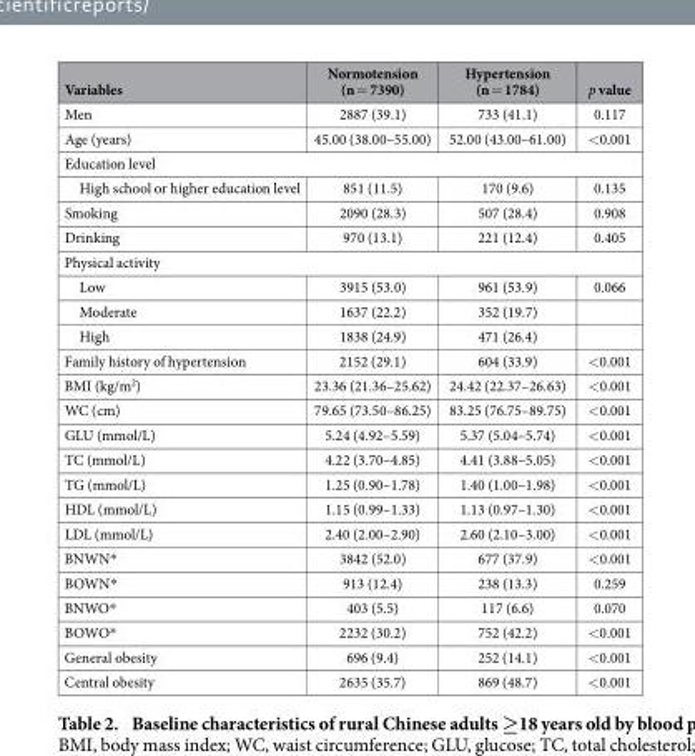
<table><thead><tr><td>Variables</td><td>Normotension (n = 7390)</td><td>Hypertension (n = 1784)</td><td>p value</td></tr></thead><tbody><tr><td>Men</td><td>2887 (39.1)</td><td>733 (41.1)</td><td>0.117</td></tr><tr><td>Age (years)</td><td>45.00 (38.00–55.00)</td><td>52.00 (43.00–61.00)</td><td>&lt; 0.001</td></tr><tr><td colspan="4">Education level</td></tr><tr><td>High school or higher education level</td><td>851 (11.5)</td><td>170 (9.6)</td><td>0.135</td></tr><tr><td>Smoking</td><td>2090 (28.3)</td><td>507 (28.4)</td><td>0.908</td></tr><tr><td>Drinking</td><td>970 (13.1)</td><td>221 (12.4)</td><td>0.405</td></tr><tr><td colspan="4">Physical activity</td></tr><tr><td>Low</td><td>3915 (53.0)</td><td>961 (53.9)</td><td>0.066</td></tr><tr><td>Moderate</td><td>1637 (22.2)</td><td>352 (19.7)</td><td></td></tr><tr><td>High</td><td>1838 (24.9)</td><td>471 (26.4)</td><td></td></tr><tr><td>Family history of hypertension</td><td>2152 (29.1)</td><td>604 (33.9)</td><td>&lt; 0.001</td></tr><tr><td>BMI (kg/m<sup>2</sup>)</td><td>23.36 (21.36–25.62)</td><td>24.42 (22.37–26.63)</td><td>&lt; 0.001</td></tr><tr><td>WC (cm)</td><td>79.65 (73.50–86.25)</td><td>83.25 (76.75–89.75)</td><td>&lt; 0.001</td></tr><tr><td>GLU (mmol/L)</td><td>5.24 (4.92–5.59)</td><td>5.37 (5.04–5.74)</td><td>&lt; 0.001</td></tr><tr><td>TC (mmol/L)</td><td>4.22 (3.70–4.85)</td><td>4.41 (3.88–5.05)</td><td>&lt; 0.001</td></tr><tr><td>TG (mmol/L)</td><td>1.25 (0.90–1.78)</td><td>1.40 (1.00–1.98)</td><td>&lt; 0.001</td></tr><tr><td>HDL (mmol/L)</td><td>1.15 (0.99–1.33)</td><td>1.13 (0.97–1.30)</td><td>&lt; 0.001</td></tr><tr><td>LDL (mmol/L)</td><td>2.40 (2.00–2.90)</td><td>2.60 (2.10–3.00)</td><td>&lt; 0.001</td></tr><tr><td>BNWN*</td><td>3842 (52.0)</td><td>677 (37.9)</td><td>&lt; 0.001</td></tr><tr><td>BOWN*</td><td>913 (12.4)</td><td>238 (13.3)</td><td>0.259</td></tr><tr><td>BNWO*</td><td>403 (5.5)</td><td>117 (6.6)</td><td>0.070</td></tr><tr><td>BOWO*</td><td>2232 (30.2)</td><td>752 (42.2)</td><td>&lt; 0.001</td></tr><tr><td>General obesity</td><td>696 (9.4)</td><td>252 (14.1)</td><td>&lt; 0.001</td></tr><tr><td>Central obesity</td><td>2635 (35.7)</td><td>869 (48.7)</td><td>&lt; 0.001</td></tr></tbody></table>